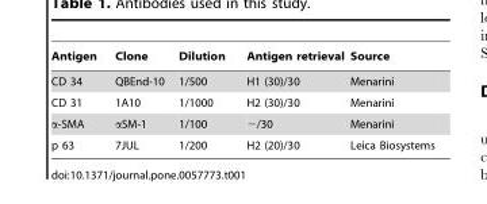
<table><thead><tr><td>Antigen</td><td>Clone</td><td>Dilution</td><td>Antigen retrieval</td><td>Source</td></tr></thead><tbody><tr><td>CD 34</td><td>QBEnd-10</td><td>1/500</td><td>H1 (30)/30</td><td>Menarini</td></tr><tr><td>CD 31</td><td>1A10</td><td>1/1000</td><td>H2 (30)/30</td><td>Menarini</td></tr><tr><td>α-SMA</td><td>αSM-1</td><td>1/100</td><td>−/30</td><td>Menarini</td></tr><tr><td>p 63</td><td>7JUL</td><td>1/200</td><td>H2 (20)/30</td><td>Leica Biosystems</td></tr></tbody></table>